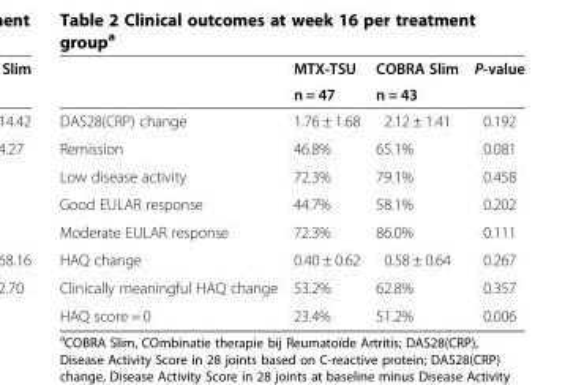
<table><thead><tr><td rowspan="2"></td><td rowspan="2">MTX-TSU n = 47</td><td rowspan="2">COBRA Slim n = 43</td><td rowspan="2">P-value</td></tr><tr></tr></thead><tbody><tr><td>DAS28(CRP) change</td><td>1.76 ± 1.68</td><td>2.12 ± 1.41</td><td>0.192</td></tr><tr><td>Remission</td><td>46.8%</td><td>65.1%</td><td>0.081</td></tr><tr><td>Low disease activity</td><td>72.3%</td><td>79.1%</td><td>0.458</td></tr><tr><td>Good EULAR response</td><td>44.7%</td><td>58.1%</td><td>0.202</td></tr><tr><td>Moderate EULAR response</td><td>72.3%</td><td>86.0%</td><td>0.111</td></tr><tr><td>HAQ change</td><td>0.40 ± 0.62</td><td>0.58 ± 0.64</td><td>0.267</td></tr><tr><td>Clinically meaningful HAQ change</td><td>53.2%</td><td>62.8%</td><td>0.357</td></tr><tr><td>HAQ score = 0</td><td>23.4%</td><td>51.2%</td><td>0.006</td></tr></tbody></table>